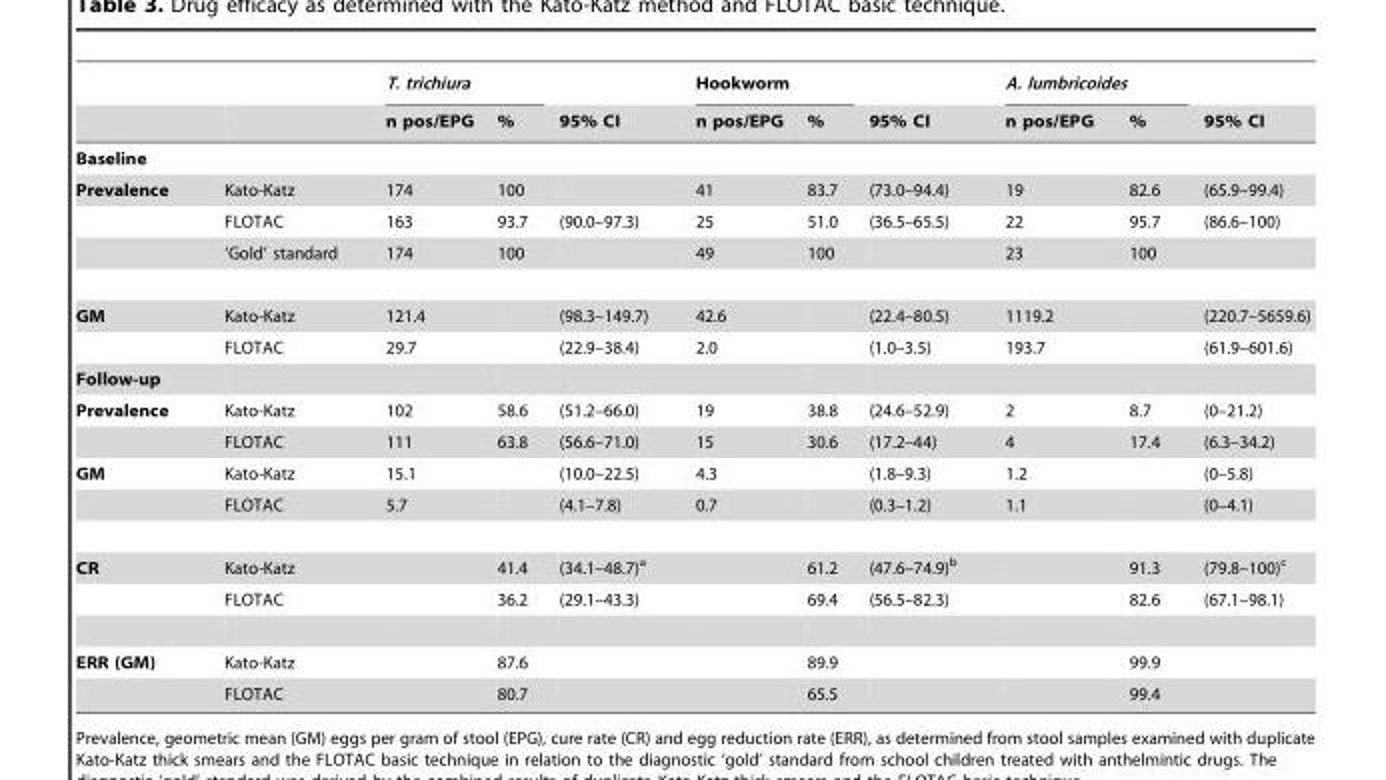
<table><thead><tr><td rowspan="2"></td><td rowspan="2"></td><td colspan="2">T. trichiura</td><td rowspan="2">95% CI</td><td colspan="2">Hookworm</td><td rowspan="2">95% CI</td><td colspan="2">A. lumbricoides</td><td rowspan="2">95% CI</td></tr><tr><td>n pos/EPG</td><td>%</td><td>n pos/EPG</td><td>%</td><td>n pos/EPG</td><td>%</td></tr></thead><tbody><tr><td colspan="11">Baseline</td></tr><tr><td rowspan="3">Prevalence</td><td>Kato-Katz</td><td>174</td><td>100</td><td></td><td>41</td><td>83.7</td><td>(73.0–94.4)</td><td>19</td><td>82.6</td><td>(65.9–99.4)</td></tr><tr><td>FLOTAC</td><td>163</td><td>93.7</td><td>(90.0–97.3)</td><td>25</td><td>51.0</td><td>(36.5–65.5)</td><td>22</td><td>95.7</td><td>(86.6–100)</td></tr><tr><td>‘Gold’ standard</td><td>174</td><td>100</td><td></td><td>49</td><td>100</td><td></td><td>23</td><td>100</td><td></td></tr><tr><td rowspan="2">GM</td><td>Kato-Katz</td><td>121.4</td><td></td><td>(98.3–149.7)</td><td>42.6</td><td></td><td>(22.4–80.5)</td><td>1119.2</td><td></td><td>(220.7–5659.6)</td></tr><tr><td>FLOTAC</td><td>29.7</td><td></td><td>(22.9–38.4)</td><td>2.0</td><td></td><td>(1.0–3.5)</td><td>193.7</td><td></td><td>(61.9–601.6)</td></tr><tr><td colspan="11">Follow-up</td></tr><tr><td rowspan="2">Prevalence</td><td>Kato-Katz</td><td>102</td><td>58.6</td><td>(51.2–66.0)</td><td>19</td><td>38.8</td><td>(24.6–52.9)</td><td>2</td><td>8.7</td><td>(0–21.2)</td></tr><tr><td>FLOTAC</td><td>111</td><td>63.8</td><td>(56.6–71.0)</td><td>15</td><td>30.6</td><td>(17.2–44)</td><td>4</td><td>17.4</td><td>(6.3–34.2)</td></tr><tr><td rowspan="2">GM</td><td>Kato-Katz</td><td>15.1</td><td></td><td>(10.0–22.5)</td><td>4.3</td><td></td><td>(1.8–9.3)</td><td>1.2</td><td></td><td>(0–5.8)</td></tr><tr><td>FLOTAC</td><td>5.7</td><td></td><td>(4.1–7.8)</td><td>0.7</td><td></td><td>(0.3–1.2)</td><td>1.1</td><td></td><td>(0–4.1)</td></tr><tr><td rowspan="2">CR</td><td>Kato-Katz</td><td></td><td>41.4</td><td>(34.1–48.7)<sup>a</sup></td><td></td><td>61.2</td><td>(47.6–74.9)<sup>b</sup></td><td></td><td>91.3</td><td>(79.8–100)<sup>c</sup></td></tr><tr><td>FLOTAC</td><td></td><td>36.2</td><td>(29.1–43.3)</td><td></td><td>69.4</td><td>(56.5–82.3)</td><td></td><td>82.6</td><td>(67.1–98.1)</td></tr><tr><td rowspan="2">ERR (GM)</td><td>Kato-Katz</td><td></td><td>87.6</td><td></td><td></td><td>89.9</td><td></td><td></td><td>99.9</td><td></td></tr><tr><td>FLOTAC</td><td></td><td>80.7</td><td></td><td></td><td>65.5</td><td></td><td></td><td>99.4</td><td></td></tr></tbody></table>